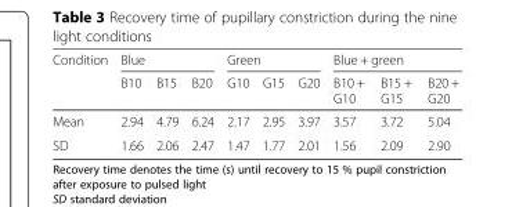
<table><thead><tr><td rowspan="2">Condition</td><td colspan="3">Blue</td><td colspan="3">Green</td><td colspan="3">Blue + green</td></tr><tr><td>B10</td><td>B15</td><td>B20</td><td>G10</td><td>G15</td><td>G20</td><td>B10 + G10</td><td>B15 + G15</td><td>B20 + G20</td></tr></thead><tbody><tr><td>Mean</td><td>2.94</td><td>4.79</td><td>6.24</td><td>2.17</td><td>2.95</td><td>3.97</td><td>3.57</td><td>3.72</td><td>5.04</td></tr><tr><td>SD</td><td>1.66</td><td>2.06</td><td>2.47</td><td>1.47</td><td>1.77</td><td>2.01</td><td>1.56</td><td>2.09</td><td>2.90</td></tr></tbody></table>